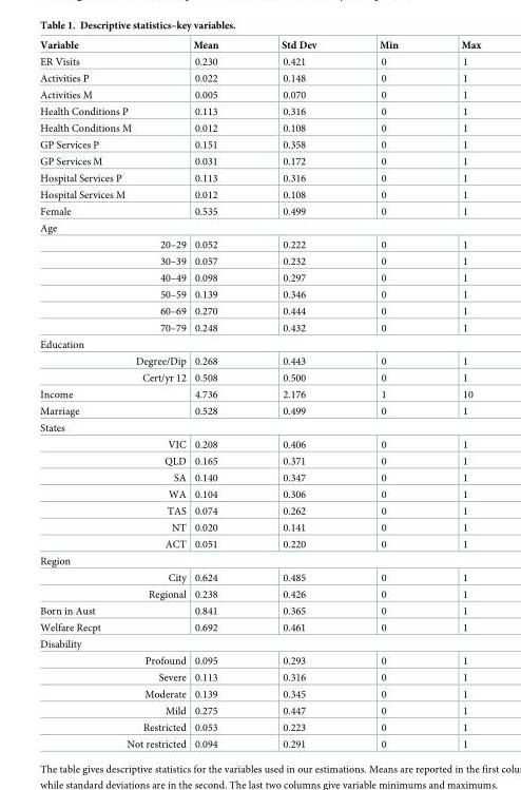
<table><thead><tr><td>Variable</td><td>Mean</td><td>Std Dev</td><td>Min</td><td>Max</td></tr></thead><tbody><tr><td>ER Visits</td><td>0.230</td><td>0.421</td><td>0</td><td>1</td></tr><tr><td>Activities P</td><td>0.022</td><td>0.148</td><td>0</td><td>1</td></tr><tr><td>Activities M</td><td>0.005</td><td>0.070</td><td>0</td><td>1</td></tr><tr><td>Health Conditions P</td><td>0.113</td><td>0.316</td><td>0</td><td>1</td></tr><tr><td>Health Conditions M</td><td>0.012</td><td>0.108</td><td>0</td><td>1</td></tr><tr><td>GP Services P</td><td>0.151</td><td>0.358</td><td>0</td><td>1</td></tr><tr><td>GP Services M</td><td>0.031</td><td>0.172</td><td>0</td><td>1</td></tr><tr><td>Hospital Services P</td><td>0.113</td><td>0.316</td><td>0</td><td>1</td></tr><tr><td>Hospital Services M</td><td>0.012</td><td>0.108</td><td>0</td><td>1</td></tr><tr><td>Female</td><td>0.535</td><td>0.499</td><td>0</td><td>1</td></tr><tr><td colspan="5">Age</td></tr><tr><td>20–29</td><td>0.052</td><td>0.222</td><td>0</td><td>1</td></tr><tr><td>30–39</td><td>0.057</td><td>0.232</td><td>0</td><td>1</td></tr><tr><td>40–49</td><td>0.098</td><td>0.297</td><td>0</td><td>1</td></tr><tr><td>50–59</td><td>0.139</td><td>0.346</td><td>0</td><td>1</td></tr><tr><td>60–69</td><td>0.270</td><td>0.444</td><td>0</td><td>1</td></tr><tr><td>70–79</td><td>0.248</td><td>0.432</td><td>0</td><td>1</td></tr><tr><td colspan="5">Education</td></tr><tr><td>Degree/Dip</td><td>0.268</td><td>0.443</td><td>0</td><td>1</td></tr><tr><td>Cert/yr 12</td><td>0.508</td><td>0.500</td><td>0</td><td>1</td></tr><tr><td>Income</td><td>4.736</td><td>2.176</td><td>1</td><td>10</td></tr><tr><td>Marriage</td><td>0.528</td><td>0.499</td><td>0</td><td>1</td></tr><tr><td colspan="5">States</td></tr><tr><td>VIC</td><td>0.208</td><td>0.406</td><td>0</td><td>1</td></tr><tr><td>QLD</td><td>0.165</td><td>0.371</td><td>0</td><td>1</td></tr><tr><td>SA</td><td>0.140</td><td>0.347</td><td>0</td><td>1</td></tr><tr><td>WA</td><td>0.104</td><td>0.306</td><td>0</td><td>1</td></tr><tr><td>TAS</td><td>0.074</td><td>0.262</td><td>0</td><td>1</td></tr><tr><td>NT</td><td>0.020</td><td>0.141</td><td>0</td><td>1</td></tr><tr><td>ACT</td><td>0.051</td><td>0.220</td><td>0</td><td>1</td></tr><tr><td colspan="5">Region</td></tr><tr><td>City</td><td>0.624</td><td>0.485</td><td>0</td><td>1</td></tr><tr><td>Regional</td><td>0.238</td><td>0.426</td><td>0</td><td>1</td></tr><tr><td>Born in Aust</td><td>0.841</td><td>0.365</td><td>0</td><td>1</td></tr><tr><td>Welfare Recpt</td><td>0.692</td><td>0.461</td><td>0</td><td>1</td></tr><tr><td colspan="5">Disability</td></tr><tr><td>Profound</td><td>0.095</td><td>0.293</td><td>0</td><td>1</td></tr><tr><td>Severe</td><td>0.113</td><td>0.316</td><td>0</td><td>1</td></tr><tr><td>Moderate</td><td>0.139</td><td>0.345</td><td>0</td><td>1</td></tr><tr><td>Mild</td><td>0.275</td><td>0.447</td><td>0</td><td>1</td></tr><tr><td>Restricted</td><td>0.053</td><td>0.223</td><td>0</td><td>1</td></tr><tr><td>Not restricted</td><td>0.094</td><td>0.291</td><td>0</td><td>1</td></tr></tbody></table>